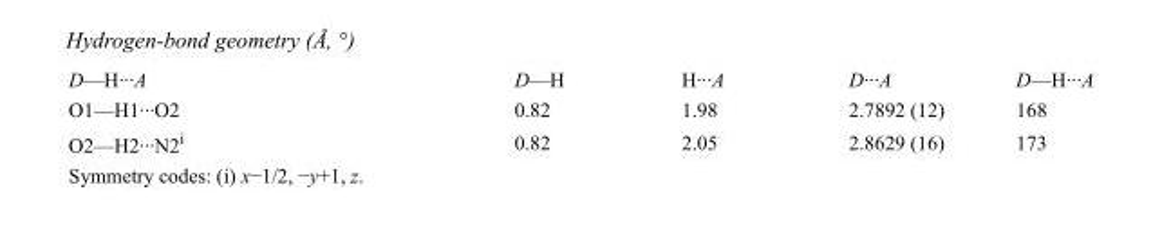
<table><tbody><tr><td>D—H···A</td><td>D—H</td><td>H···A</td><td>D···A</td><td>D—H···A</td></tr><tr><td>O1—H1···O2</td><td>0.82</td><td>1.98</td><td>2.7892 (12)</td><td>168</td></tr><tr><td>O2—H2···N2<sup>i</sup></td><td>0.82</td><td>2.05</td><td>2.8629 (16)</td><td>173</td></tr></tbody></table>